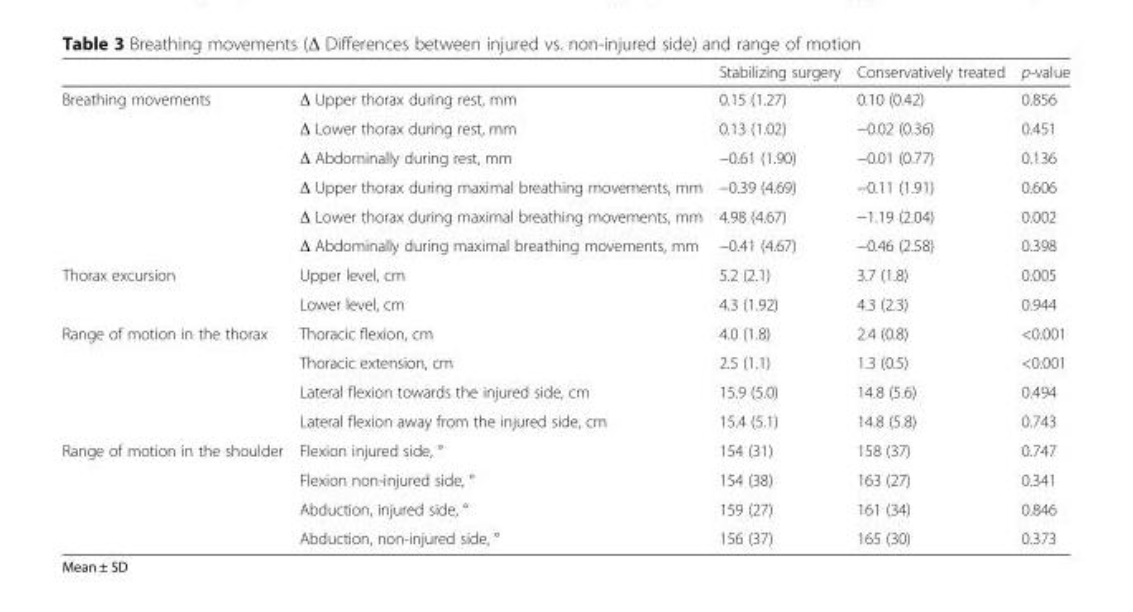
<table><thead><tr><td></td><td></td><td>Stabilizing surgery</td><td>Conservatively treated</td><td>p-value</td></tr></thead><tbody><tr><td rowspan="6">Breathing movements</td><td>Δ Upper thorax during rest, mm</td><td>0.15 (1.27)</td><td>0.10 (0.42)</td><td>0.856</td></tr><tr><td>Δ Lower thorax during rest, mm</td><td>0.13 (1.02)</td><td>−0.02 (0.36)</td><td>0.451</td></tr><tr><td>Δ Abdominally during rest, mm</td><td>−0.61 (1.90)</td><td>−0.01 (0.77)</td><td>0.136</td></tr><tr><td>Δ Upper thorax during maximal breathing movements, mm</td><td>−0.39 (4.69)</td><td>−0.11 (1.91)</td><td>0.606</td></tr><tr><td>Δ Lower thorax during maximal breathing movements, mm</td><td>4.98 (4.67)</td><td>−1.19 (2.04)</td><td>0.002</td></tr><tr><td>Δ Abdominally during maximal breathing movements, mm</td><td>−0.41 (4.67)</td><td>−0.46 (2.58)</td><td>0.398</td></tr><tr><td rowspan="2">Thorax excursion</td><td>Upper level, cm</td><td>5.2 (2.1)</td><td>3.7 (1.8)</td><td>0.005</td></tr><tr><td>Lower level, cm</td><td>4.3 (1.92)</td><td>4.3 (2.3)</td><td>0.944</td></tr><tr><td rowspan="4">Range of motion in the thorax</td><td>Thoracic flexion, cm</td><td>4.0 (1.8)</td><td>2.4 (0.8)</td><td>&lt;0.001</td></tr><tr><td>Thoracic extension, cm</td><td>2.5 (1.1)</td><td>1.3 (0.5)</td><td>&lt;0.001</td></tr><tr><td>Lateral flexion towards the injured side, cm</td><td>15.9 (5.0)</td><td>14.8 (5.6)</td><td>0.494</td></tr><tr><td>Lateral flexion away from the injured side, cm</td><td>15.4 (5.1)</td><td>14.8 (5.8)</td><td>0.743</td></tr><tr><td rowspan="4">Range of motion in the shoulder</td><td>Flexion injured side, °</td><td>154 (31)</td><td>158 (37)</td><td>0.747</td></tr><tr><td>Flexion non-injured side, °</td><td>154 (38)</td><td>163 (27)</td><td>0.341</td></tr><tr><td>Abduction, injured side, °</td><td>159 (27)</td><td>161 (34)</td><td>0.846</td></tr><tr><td>Abduction, non-injured side, °</td><td>156 (37)</td><td>165 (30)</td><td>0.373</td></tr></tbody></table>